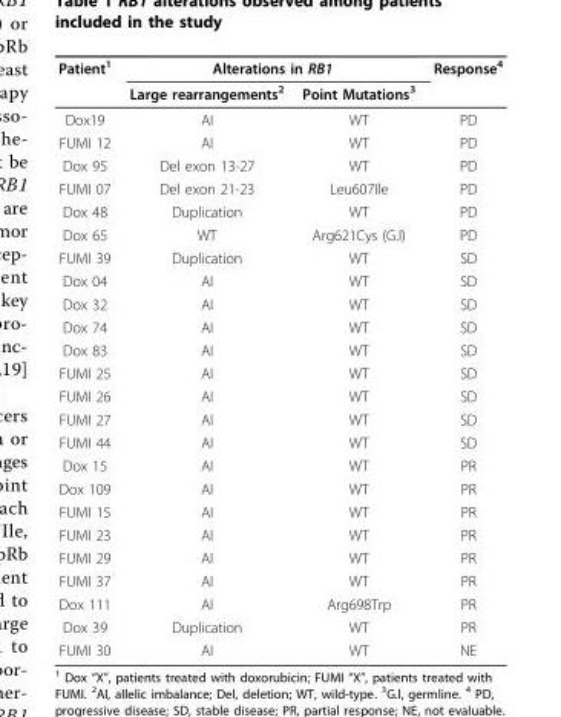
<table><thead><tr><td rowspan="2">Patient<sup>1</sup></td><td colspan="2">Alterations in RB1</td><td rowspan="2">Response<sup>4</sup></td></tr><tr><td>Large rearrangements<sup>2</sup></td><td>Point Mutations<sup>3</sup></td></tr></thead><tbody><tr><td>Dox19</td><td>AI</td><td>WT</td><td>PD</td></tr><tr><td>FUMI 12</td><td>AI</td><td>WT</td><td>PD</td></tr><tr><td>Dox 95</td><td>Del exon 13-27</td><td>WT</td><td>PD</td></tr><tr><td>FUMI 07</td><td>Del exon 21-23</td><td>Leu607Ile</td><td>PD</td></tr><tr><td>Dox 48</td><td>Duplication</td><td>WT</td><td>PD</td></tr><tr><td>Dox 65</td><td>WT</td><td>Arg621Cys (G.l)</td><td>PD</td></tr><tr><td>FUMI 39</td><td>Duplication</td><td>WT</td><td>SD</td></tr><tr><td>Dox 04</td><td>AI</td><td>WT</td><td>SD</td></tr><tr><td>Dox 32</td><td>AI</td><td>WT</td><td>SD</td></tr><tr><td>Dox 74</td><td>AI</td><td>WT</td><td>SD</td></tr><tr><td>Dox 83</td><td>AI</td><td>WT</td><td>SD</td></tr><tr><td>FUMI 25</td><td>AI</td><td>WT</td><td>SD</td></tr><tr><td>FUMI 26</td><td>AI</td><td>WT</td><td>SD</td></tr><tr><td>FUMI 27</td><td>AI</td><td>WT</td><td>SD</td></tr><tr><td>FUMI 44</td><td>AI</td><td>WT</td><td>SD</td></tr><tr><td>Dox 15</td><td>AI</td><td>WT</td><td>PR</td></tr><tr><td>Dox 109</td><td>AI</td><td>WT</td><td>PR</td></tr><tr><td>FUMI 15</td><td>AI</td><td>WT</td><td>PR</td></tr><tr><td>FUMI 23</td><td>AI</td><td>WT</td><td>PR</td></tr><tr><td>FUMI 29</td><td>AI</td><td>WT</td><td>PR</td></tr><tr><td>FUMI 37</td><td>AI</td><td>WT</td><td>PR</td></tr><tr><td>Dox 111</td><td>AI</td><td>Arg698Trp</td><td>PR</td></tr><tr><td>Dox 39</td><td>Duplication</td><td>WT</td><td>PR</td></tr><tr><td>FUMI 30</td><td>AI</td><td>WT</td><td>NE</td></tr></tbody></table>